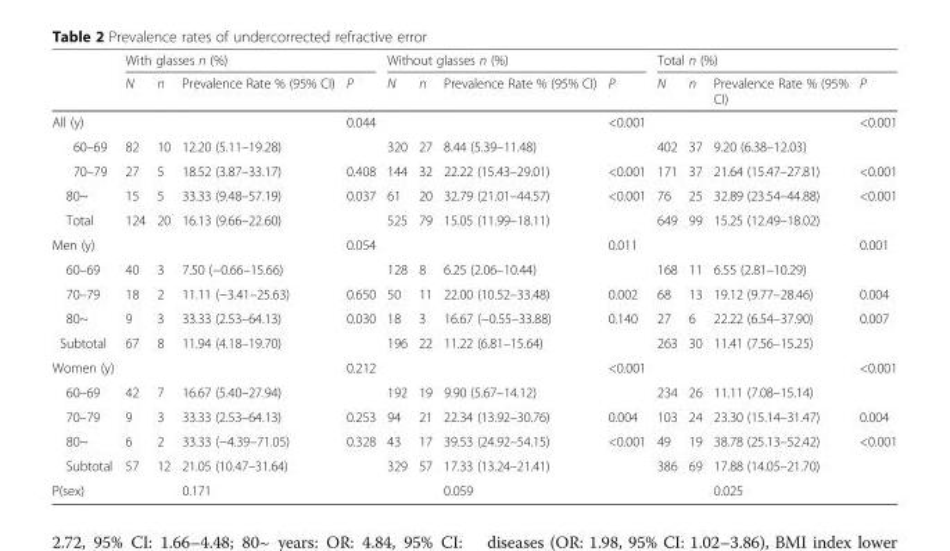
<table><thead><tr><td rowspan="2"></td><td colspan="4">With glasses n (%)</td><td colspan="4">Without glasses n (%)</td><td colspan="4">Total n (%)</td></tr><tr><td>N</td><td>n</td><td>Prevalence Rate % (95% CI)</td><td>P</td><td>N</td><td>n</td><td>Prevalence Rate % (95% CI)</td><td>P</td><td>N</td><td>n</td><td>Prevalence Rate % (95% CI)</td><td>P</td></tr></thead><tbody><tr><td>All (y)</td><td></td><td></td><td></td><td>0.044</td><td></td><td></td><td></td><td>&lt;0.001</td><td></td><td></td><td></td><td>&lt;0.001</td></tr><tr><td>60–69</td><td>82</td><td>10</td><td>12.20 (5.11–19.28)</td><td></td><td>320</td><td>27</td><td>8.44 (5.39–11.48)</td><td></td><td>402</td><td>37</td><td>9.20 (6.38–12.03)</td><td></td></tr><tr><td>70–79</td><td>27</td><td>5</td><td>18.52 (3.87–33.17)</td><td>0.408</td><td>144</td><td>32</td><td>22.22 (15.43–29.01)</td><td>&lt;0.001</td><td>171</td><td>37</td><td>21.64 (15.47–27.81)</td><td>&lt;0.001</td></tr><tr><td>80~</td><td>15</td><td>5</td><td>33.33 (9.48–57.19)</td><td>0.037</td><td>61</td><td>20</td><td>32.79 (21.01–44.57)</td><td>&lt;0.001</td><td>76</td><td>25</td><td>32.89 (23.54–44.88)</td><td>&lt;0.001</td></tr><tr><td>Total</td><td>124</td><td>20</td><td>16.13 (9.66–22.60)</td><td></td><td>525</td><td>79</td><td>15.05 (11.99–18.11)</td><td></td><td>649</td><td>99</td><td>15.25 (12.49–18.02)</td><td></td></tr><tr><td>Men (y)</td><td></td><td></td><td></td><td>0.054</td><td></td><td></td><td></td><td>0.011</td><td></td><td></td><td></td><td>0.001</td></tr><tr><td>60–69</td><td>40</td><td>3</td><td>7.50 (−0.66–15.66)</td><td></td><td>128</td><td>8</td><td>6.25 (2.06–10.44)</td><td></td><td>168</td><td>11</td><td>6.55 (2.81–10.29)</td><td></td></tr><tr><td>70–79</td><td>18</td><td>2</td><td>11.11 (−3.41–25.63)</td><td>0.650</td><td>50</td><td>11</td><td>22.00 (10.52–33.48)</td><td>0.002</td><td>68</td><td>13</td><td>19.12 (9.77–28.46)</td><td>0.004</td></tr><tr><td>80~</td><td>9</td><td>3</td><td>33.33 (2.53–64.13)</td><td>0.030</td><td>18</td><td>3</td><td>16.67 (−0.55–33.88)</td><td>0.140</td><td>27</td><td>6</td><td>22.22 (6.54–37.90)</td><td>0.007</td></tr><tr><td>Subtotal</td><td>67</td><td>8</td><td>11.94 (4.18–19.70)</td><td></td><td>196</td><td>22</td><td>11.22 (6.81–15.64)</td><td></td><td>263</td><td>30</td><td>11.41 (7.56–15.25)</td><td></td></tr><tr><td>Women (y)</td><td></td><td></td><td></td><td>0.212</td><td></td><td></td><td></td><td>&lt;0.001</td><td></td><td></td><td></td><td>&lt;0.001</td></tr><tr><td>60–69</td><td>42</td><td>7</td><td>16.67 (5.40–27.94)</td><td></td><td>192</td><td>19</td><td>9.90 (5.67–14.12)</td><td></td><td>234</td><td>26</td><td>11.11 (7.08–15.14)</td><td></td></tr><tr><td>70–79</td><td>9</td><td>3</td><td>33.33 (2.53–64.13)</td><td>0.253</td><td>94</td><td>21</td><td>22.34 (13.92–30.76)</td><td>0.004</td><td>103</td><td>24</td><td>23.30 (15.14–31.47)</td><td>0.004</td></tr><tr><td>80~</td><td>6</td><td>2</td><td>33.33 (−4.39–71.05)</td><td>0.328</td><td>43</td><td>17</td><td>39.53 (24.92–54.15)</td><td>&lt;0.001</td><td>49</td><td>19</td><td>38.78 (25.13–52.42)</td><td>&lt;0.001</td></tr><tr><td>Subtotal</td><td>57</td><td>12</td><td>21.05 (10.47–31.64)</td><td></td><td>329</td><td>57</td><td>17.33 (13.24–21.41)</td><td></td><td>386</td><td>69</td><td>17.88 (14.05–21.70)</td><td></td></tr><tr><td>P(sex)</td><td></td><td></td><td>0.171</td><td></td><td></td><td></td><td>0.059</td><td></td><td></td><td></td><td>0.025</td><td></td></tr></tbody></table>